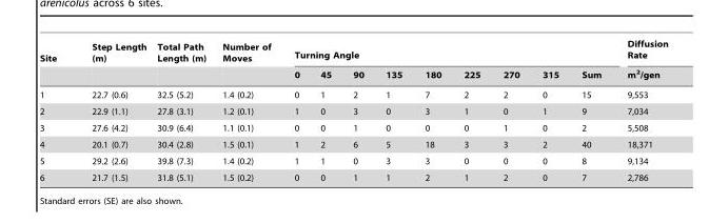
<table><thead><tr><td rowspan="2">Site</td><td rowspan="2">Step Length (m)</td><td rowspan="2">Total Path Length (m)</td><td rowspan="2">Number of Moves</td><td colspan="9">Turning Angle</td><td rowspan="2">Diffusion Rate m<sup>2</sup>/gen</td></tr><tr><td>0</td><td>45</td><td>90</td><td>135</td><td>180</td><td>225</td><td>270</td><td>315</td><td>Sum</td></tr></thead><tbody><tr><td>1</td><td>22.7 (0.6)</td><td>32.5 (5.2)</td><td>1.4 (0.2)</td><td>0</td><td>1</td><td>2</td><td>1</td><td>7</td><td>2</td><td>2</td><td>0</td><td>15</td><td>9,553</td></tr><tr><td>2</td><td>22.9 (1.1)</td><td>27.8 (3.1)</td><td>1.2 (0.1)</td><td>1</td><td>0</td><td>3</td><td>0</td><td>3</td><td>1</td><td>0</td><td>1</td><td>9</td><td>7,034</td></tr><tr><td>3</td><td>27.6 (4.2)</td><td>30.9 (6.4)</td><td>1.1 (0.1)</td><td>0</td><td>0</td><td>1</td><td>0</td><td>0</td><td>0</td><td>1</td><td>0</td><td>2</td><td>5,508</td></tr><tr><td>4</td><td>20.1 (0.7)</td><td>30.4 (2.8)</td><td>1.5 (0.1)</td><td>1</td><td>2</td><td>6</td><td>5</td><td>18</td><td>3</td><td>3</td><td>2</td><td>40</td><td>18,371</td></tr><tr><td>5</td><td>29.2 (2.6)</td><td>39.8 (7.3)</td><td>1.4 (0.2)</td><td>1</td><td>1</td><td>0</td><td>3</td><td>3</td><td>0</td><td>0</td><td>0</td><td>8</td><td>9,134</td></tr><tr><td>6</td><td>21.7 (1.5)</td><td>31.8 (5.1)</td><td>1.5 (0.2)</td><td>0</td><td>0</td><td>1</td><td>1</td><td>2</td><td>1</td><td>2</td><td>0</td><td>7</td><td>2,786</td></tr></tbody></table>